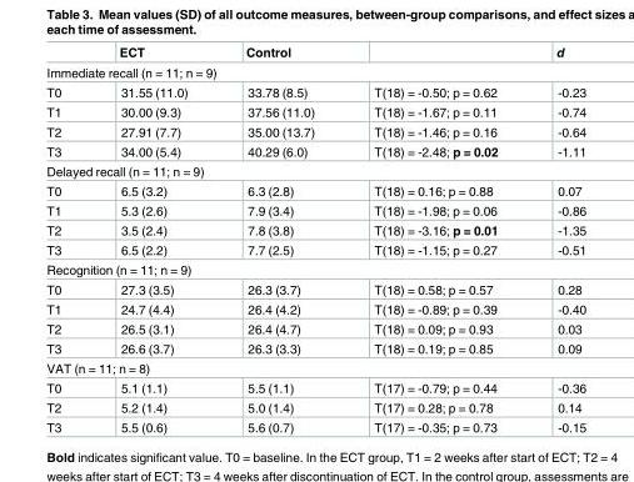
<table><thead><tr><td></td><td>ECT</td><td>Control</td><td></td><td>d</td></tr></thead><tbody><tr><td colspan="5">Immediate recall (n = 11; n = 9)</td></tr><tr><td>T0</td><td>31.55 (11.0)</td><td>33.78 (8.5)</td><td>T(18) = -0.50; p = 0.62</td><td>-0.23</td></tr><tr><td>T1</td><td>30.00 (9.3)</td><td>37.56 (11.0)</td><td>T(18) = -1.67; p = 0.11</td><td>-0.74</td></tr><tr><td>T2</td><td>27.91 (7.7)</td><td>35.00 (13.7)</td><td>T(18) = -1.46; p = 0.16</td><td>-0.64</td></tr><tr><td>T3</td><td>34.00 (5.4)</td><td>40.29 (6.0)</td><td>T(18) = -2.48; p = 0.02</td><td>-1.11</td></tr><tr><td colspan="5">Delayed recall (n = 11; n = 9)</td></tr><tr><td>T0</td><td>6.5 (3.2)</td><td>6.3 (2.8)</td><td>T(18) = 0.16; p = 0.88</td><td>0.07</td></tr><tr><td>T1</td><td>5.3 (2.6)</td><td>7.9 (3.4)</td><td>T(18) = -1.98; p = 0.06</td><td>-0.86</td></tr><tr><td>T2</td><td>3.5 (2.4)</td><td>7.8 (3.8)</td><td>T(18) = -3.16; p = 0.01</td><td>-1.35</td></tr><tr><td>T3</td><td>6.5 (2.2)</td><td>7.7 (2.5)</td><td>T(18) = -1.15; p = 0.27</td><td>-0.51</td></tr><tr><td colspan="5">Recognition (n = 11; n = 9)</td></tr><tr><td>T0</td><td>27.3 (3.5)</td><td>26.3 (3.7)</td><td>T(18) = 0.58; p = 0.57</td><td>0.28</td></tr><tr><td>T1</td><td>24.7 (4.4)</td><td>26.4 (4.2)</td><td>T(18) = -0.89; p = 0.39</td><td>-0.40</td></tr><tr><td>T2</td><td>26.5 (3.1)</td><td>26.4 (4.7)</td><td>T(18) = 0.09; p = 0.93</td><td>0.03</td></tr><tr><td>T3</td><td>26.6 (3.7)</td><td>26.3 (3.3)</td><td>T(18) = 0.19; p = 0.85</td><td>0.09</td></tr><tr><td colspan="5">VAT (n = 11; n = 8)</td></tr><tr><td>T0</td><td>5.1 (1.1)</td><td>5.5 (1.1)</td><td>T(17) = -0.79; p = 0.44</td><td>-0.36</td></tr><tr><td>T2</td><td>5.2 (1.4)</td><td>5.0 (1.4)</td><td>T(17) = 0.28; p = 0.78</td><td>0.14</td></tr><tr><td>T3</td><td>5.5 (0.6)</td><td>5.6 (0.7)</td><td>T(17) = -0.35; p = 0.73</td><td>-0.15</td></tr></tbody></table>